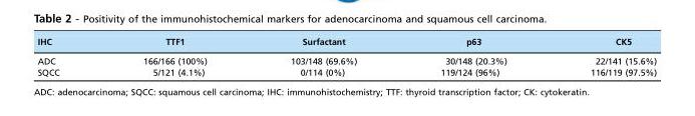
<table><thead><tr><td>IHC</td><td>TTF1</td><td>Surfactant</td><td>p63</td><td>CK5</td></tr></thead><tbody><tr><td>ADC</td><td>166/166 (100%)</td><td>103/148 (69.6%)</td><td>30/148 (20.3%)</td><td>22/141 (15.6%)</td></tr><tr><td>SQCC</td><td>5/121 (4.1%)</td><td>0/114 (0%)</td><td>119/124 (96%)</td><td>116/119 (97.5%)</td></tr></tbody></table>